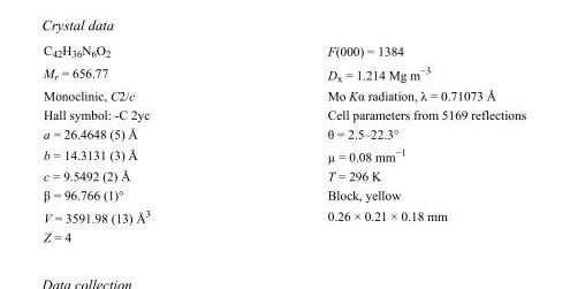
<table><tbody><tr><td>C<sub>42</sub>H<sub>36</sub>N<sub>6</sub>O<sub>2</sub></td><td>F(000) = 1384</td></tr><tr><td>M<sub>r</sub> = 656.77</td><td>D<sub>x</sub> = 1.214 Mg m<sup>−3</sup></td></tr><tr><td>Monoclinic, C2/c</td><td>Mo Kα radiation, λ = 0.71073 Å</td></tr><tr><td>Hall symbol: -C 2yc</td><td>Cell parameters from 5169 reflections</td></tr><tr><td>a = 26.4648 (5) Å</td><td>θ = 2.5–22.3°</td></tr><tr><td>b = 14.3131 (3) Å</td><td>µ = 0.08 mm<sup>−1</sup></td></tr><tr><td>c = 9.5492 (2) Å</td><td>T = 296 K</td></tr><tr><td>β = 96.766 (1)°</td><td>Block, yellow</td></tr><tr><td>V = 3591.98 (13) Å<sup>3</sup></td><td>0.26 × 0.21 × 0.18 mm</td></tr><tr><td>Z = 4</td><td></td></tr></tbody></table>